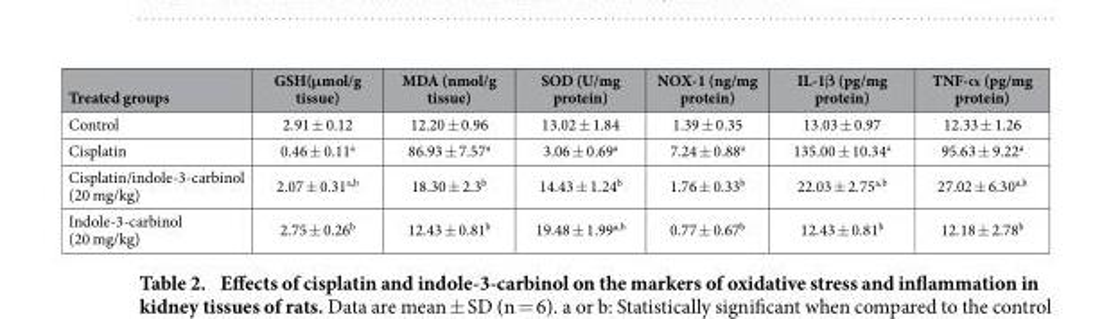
<table><thead><tr><td>Treated groups</td><td>GSH(μmol/g tissue)</td><td>MDA (nmol/g tissue)</td><td>SOD (U/mg protein)</td><td>NOX-1 (ng/mg protein)</td><td>IL-1β (pg/mg protein)</td><td>TNF-α (pg/mg protein)</td></tr></thead><tbody><tr><td>Control</td><td>2.91 ± 0.12</td><td>12.20 ± 0.96</td><td>13.02 ± 1.84</td><td>1.39 ± 0.35</td><td>13.03 ± 0.97</td><td>12.33 ± 1.26</td></tr><tr><td>Cisplatin</td><td>0.46 ± 0.11<sup>a</sup></td><td>86.93 ± 7.57<sup>a</sup></td><td>3.06 ± 0.69<sup>a</sup></td><td>7.24 ± 0.88<sup>a</sup></td><td>135.00 ± 10.34<sup>a</sup></td><td>95.63 ± 9.22<sup>a</sup></td></tr><tr><td>Cisplatin/indole-3-carbinol (20 mg/kg)</td><td>2.07 ± 0.31<sup>a,b</sup></td><td>18.30 ± 2.3<sup>b</sup></td><td>14.43 ± 1.24<sup>b</sup></td><td>1.76 ± 0.33<sup>b</sup></td><td>22.03 ± 2.75<sup>a,b</sup></td><td>27.02 ± 6.30<sup>a,b</sup></td></tr><tr><td>Indole-3-carbinol (20 mg/kg)</td><td>2.75 ± 0.26<sup>b</sup></td><td>12.43 ± 0.81<sup>b</sup></td><td>19.48 ± 1.99<sup>a,b</sup></td><td>0.77 ± 0.67<sup>b</sup></td><td>12.43 ± 0.81<sup>b</sup></td><td>12.18 ± 2.78<sup>b</sup></td></tr></tbody></table>